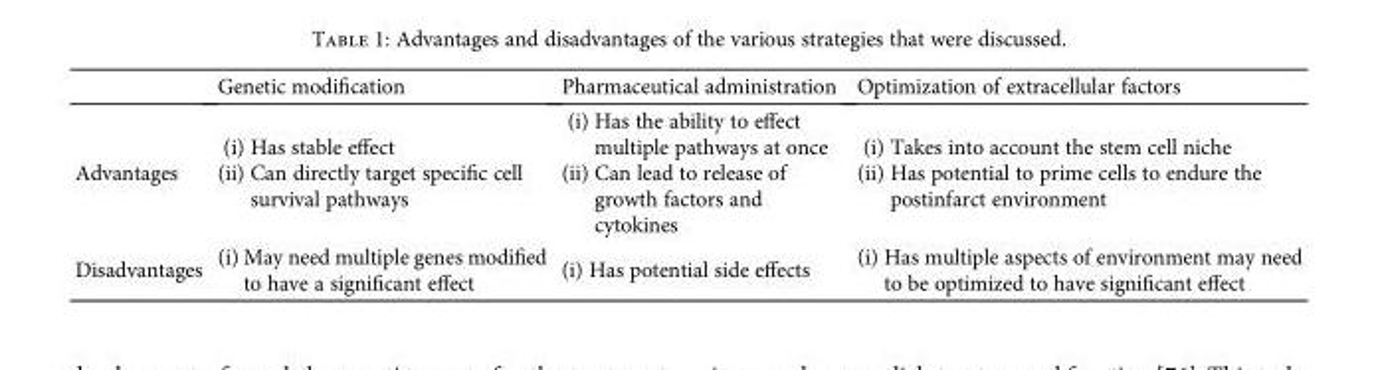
<table><thead><tr><td></td><td>Genetic modification</td><td>Pharmaceutical administration</td><td>Optimization of extracellular factors</td></tr></thead><tbody><tr><td>Advantages</td><td>(i) Has stable effect (ii) Can directly target specific cell survival pathways</td><td>(i) Has the ability to effect multiple pathways at once (ii) Can lead to release of growth factors and cytokines</td><td>(i) Takes into account the stem cell niche (ii) Has potential to prime cells to endure the postinfarct environment</td></tr><tr><td>Disadvantages</td><td>(i) May need multiple genes modified to have a significant effect</td><td>(i) Has potential side effects</td><td>(i) Has multiple aspects of environment may need to be optimized to have significant effect</td></tr></tbody></table>